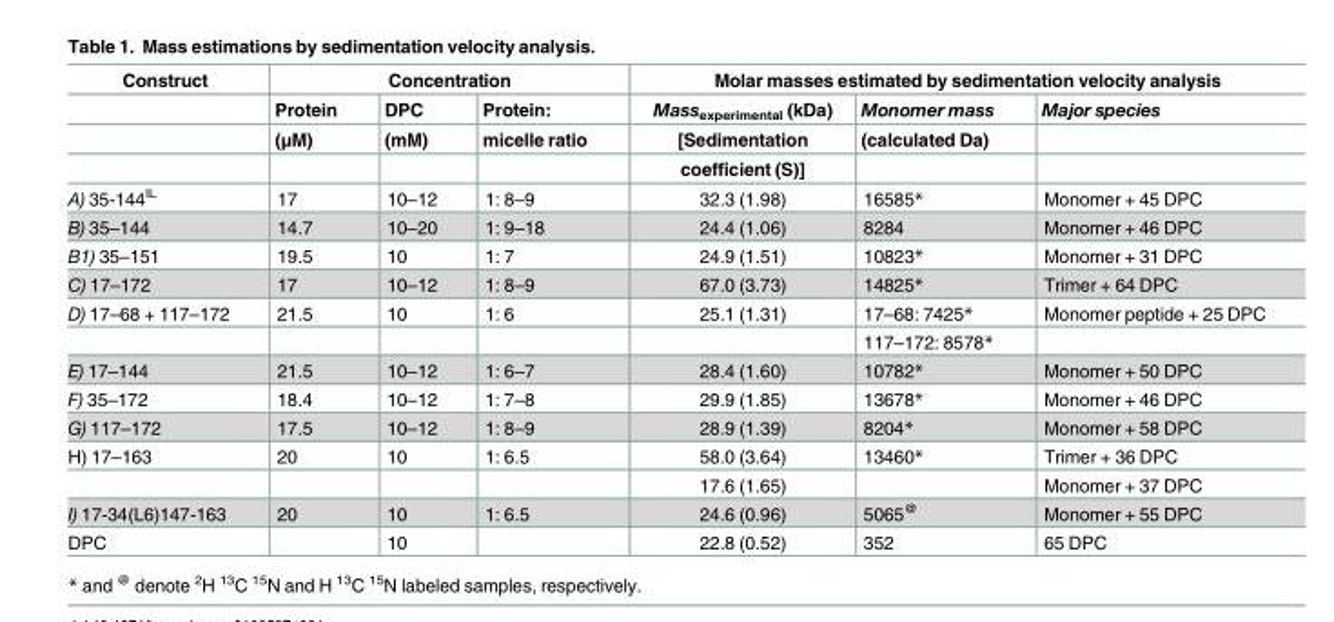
<table><thead><tr><td rowspan="4">Construct</td><td colspan="3">Concentration</td><td colspan="3">Molar masses estimated by sedimentation velocity analysis</td></tr><tr><td rowspan="3">Protein (μM)</td><td rowspan="3">DPC (mM)</td><td rowspan="3">Protein: micelle ratio</td><td rowspan="3">Mass<sub>experimental</sub> (kDa) [Sedimentation coefficient (S)]</td><td rowspan="3">Monomer mass (calculated Da)</td><td rowspan="3">Major species</td></tr><tr></tr><tr></tr></thead><tbody><tr><td>A) 35-144<sup>IL</sup></td><td>17</td><td>10–12</td><td>1: 8–9</td><td>32.3 (1.98)</td><td>16585*</td><td>Monomer + 45 DPC</td></tr><tr><td>B) 35–144</td><td>14.7</td><td>10–20</td><td>1: 9–18</td><td>24.4 (1.06)</td><td>8284</td><td>Monomer + 46 DPC</td></tr><tr><td>B1) 35–151</td><td>19.5</td><td>10</td><td>1: 7</td><td>24.9 (1.51)</td><td>10823*</td><td>Monomer + 31 DPC</td></tr><tr><td>C) 17–172</td><td>17</td><td>10–12</td><td>1: 8–9</td><td>67.0 (3.73)</td><td>14825*</td><td>Trimer + 64 DPC</td></tr><tr><td rowspan="2">D) 17–68 + 117–172</td><td>21.5</td><td>10</td><td>1: 6</td><td>25.1 (1.31)</td><td>17–68: 7425*</td><td>Monomer peptide + 25 DPC</td></tr><tr><td></td><td></td><td></td><td></td><td>117–172: 8578*</td><td></td></tr><tr><td>E) 17–144</td><td>21.5</td><td>10–12</td><td>1: 6–7</td><td>28.4 (1.60)</td><td>10782*</td><td>Monomer + 50 DPC</td></tr><tr><td>F) 35–172</td><td>18.4</td><td>10–12</td><td>1: 7–8</td><td>29.9 (1.85)</td><td>13678*</td><td>Monomer + 46 DPC</td></tr><tr><td>G) 117–172</td><td>17.5</td><td>10–12</td><td>1: 8–9</td><td>28.9 (1.39)</td><td>8204*</td><td>Monomer + 58 DPC</td></tr><tr><td rowspan="2">H) 17–163</td><td>20</td><td>10</td><td>1: 6.5</td><td>58.0 (3.64)</td><td>13460*</td><td>Trimer + 36 DPC</td></tr><tr><td></td><td></td><td></td><td>17.6 (1.65)</td><td></td><td>Monomer + 37 DPC</td></tr><tr><td>I) 17-34(L6)147-163</td><td>20</td><td>10</td><td>1: 6.5</td><td>24.6 (0.96)</td><td>5065<sup>@</sup></td><td>Monomer + 55 DPC</td></tr><tr><td>DPC</td><td></td><td>10</td><td></td><td>22.8 (0.52)</td><td>352</td><td>65 DPC</td></tr></tbody></table>